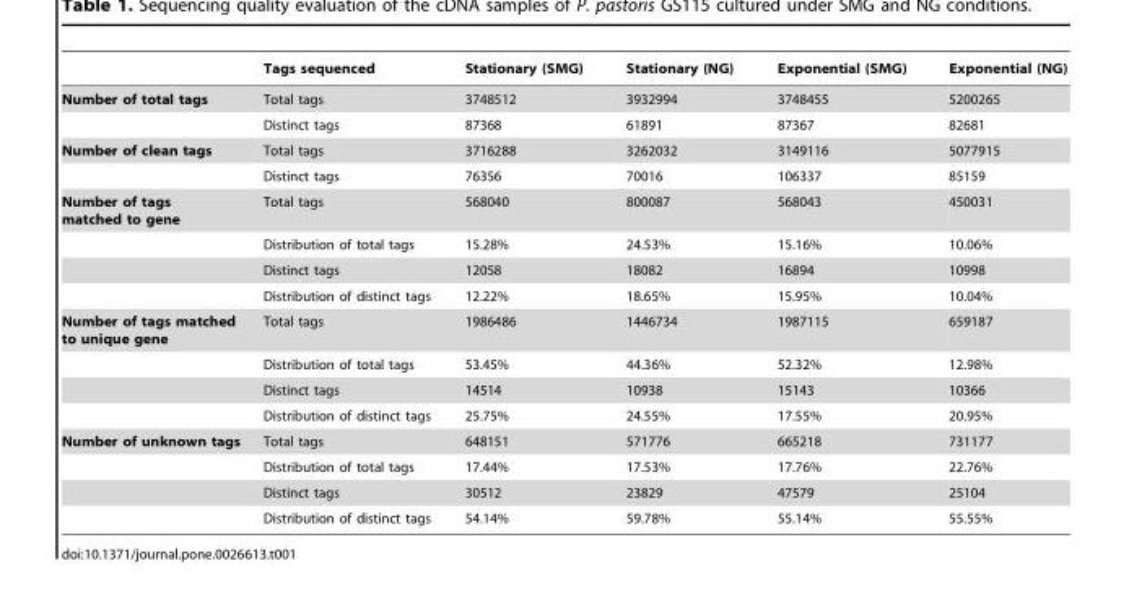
<table><thead><tr><td></td><td>Tags sequenced</td><td>Stationary (SMG)</td><td>Stationary (NG)</td><td>Exponential (SMG)</td><td>Exponential (NG)</td></tr></thead><tbody><tr><td rowspan="2">Number of total tags</td><td>Total tags</td><td>3748512</td><td>3932994</td><td>3748455</td><td>5200265</td></tr><tr><td>Distinct tags</td><td>87368</td><td>61891</td><td>87367</td><td>82681</td></tr><tr><td rowspan="2">Number of clean tags</td><td>Total tags</td><td>3716288</td><td>3262032</td><td>3149116</td><td>5077915</td></tr><tr><td>Distinct tags</td><td>76356</td><td>70016</td><td>106337</td><td>85159</td></tr><tr><td rowspan="4">Number of tags matched to gene</td><td>Total tags</td><td>568040</td><td>800087</td><td>568043</td><td>450031</td></tr><tr><td>Distribution of total tags</td><td>15.28%</td><td>24.53%</td><td>15.16%</td><td>10.06%</td></tr><tr><td>Distinct tags</td><td>12058</td><td>18082</td><td>16894</td><td>10998</td></tr><tr><td>Distribution of distinct tags</td><td>12.22%</td><td>18.65%</td><td>15.95%</td><td>10.04%</td></tr><tr><td rowspan="4">Number of tags matched to unique gene</td><td>Total tags</td><td>1986486</td><td>1446734</td><td>1987115</td><td>659187</td></tr><tr><td>Distribution of total tags</td><td>53.45%</td><td>44.36%</td><td>52.32%</td><td>12.98%</td></tr><tr><td>Distinct tags</td><td>14514</td><td>10938</td><td>15143</td><td>10366</td></tr><tr><td>Distribution of distinct tags</td><td>25.75%</td><td>24.55%</td><td>17.55%</td><td>20.95%</td></tr><tr><td rowspan="4">Number of unknown tags</td><td>Total tags</td><td>648151</td><td>571776</td><td>665218</td><td>731177</td></tr><tr><td>Distribution of total tags</td><td>17.44%</td><td>17.53%</td><td>17.76%</td><td>22.76%</td></tr><tr><td>Distinct tags</td><td>30512</td><td>23829</td><td>47579</td><td>25104</td></tr><tr><td>Distribution of distinct tags</td><td>54.14%</td><td>59.78%</td><td>55.14%</td><td>55.55%</td></tr></tbody></table>